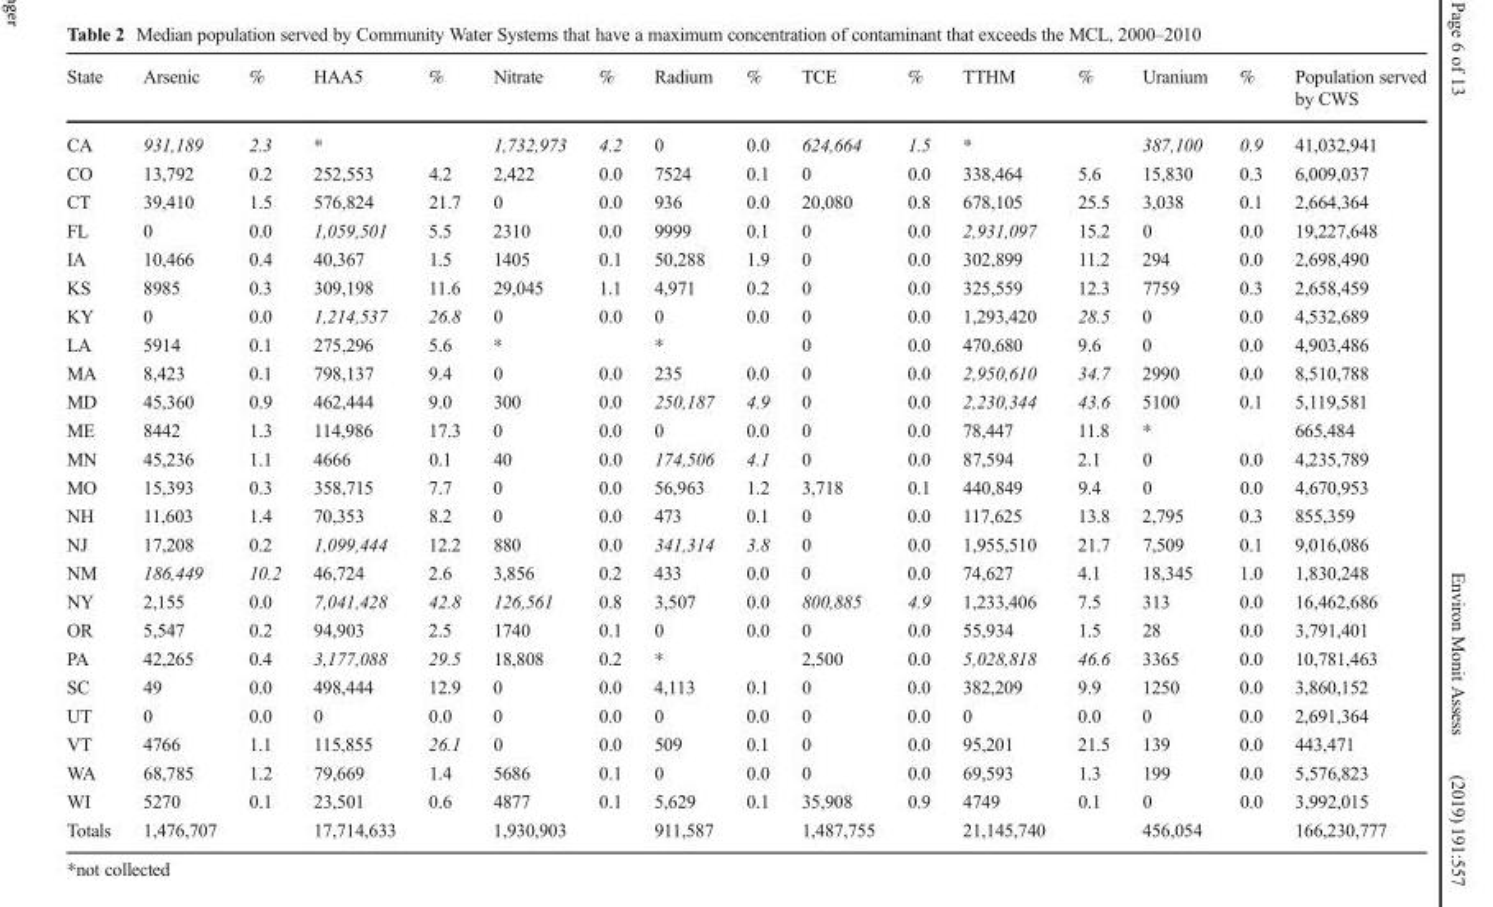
<table><thead><tr><td>State</td><td>Arsenic</td><td>%</td><td>HAA5</td><td>%</td><td>Nitrate</td><td>%</td><td>Radium</td><td>%</td><td>TCE</td><td>%</td><td>TTHM</td><td>%</td><td>Uranium</td><td>%</td><td>Population served by CWS</td></tr></thead><tbody><tr><td>CA</td><td>931,189</td><td>2.3</td><td>*</td><td></td><td>1,732,973</td><td>4.2</td><td>0</td><td>0.0</td><td>624,664</td><td>1.5</td><td>*</td><td></td><td>387,100</td><td>0.9</td><td>41,032,941</td></tr><tr><td>CO</td><td>13,792</td><td>0.2</td><td>252,553</td><td>4.2</td><td>2,422</td><td>0.0</td><td>7524</td><td>0.1</td><td>0</td><td>0.0</td><td>338,464</td><td>5.6</td><td>15,830</td><td>0.3</td><td>6,009,037</td></tr><tr><td>CT</td><td>39,410</td><td>1.5</td><td>576,824</td><td>21.7</td><td>0</td><td>0.0</td><td>936</td><td>0.0</td><td>20,080</td><td>0.8</td><td>678,105</td><td>25.5</td><td>3,038</td><td>0.1</td><td>2,664,364</td></tr><tr><td>FL</td><td>0</td><td>0.0</td><td>1,059,501</td><td>5.5</td><td>2310</td><td>0.0</td><td>9999</td><td>0.1</td><td>0</td><td>0.0</td><td>2,931,097</td><td>15.2</td><td>0</td><td>0.0</td><td>19,227,648</td></tr><tr><td>IA</td><td>10,466</td><td>0.4</td><td>40,367</td><td>1.5</td><td>1405</td><td>0.1</td><td>50,288</td><td>1.9</td><td>0</td><td>0.0</td><td>302,899</td><td>11.2</td><td>294</td><td>0.0</td><td>2,698,490</td></tr><tr><td>KS</td><td>8985</td><td>0.3</td><td>309,198</td><td>11.6</td><td>29,045</td><td>1.1</td><td>4,971</td><td>0.2</td><td>0</td><td>0.0</td><td>325,559</td><td>12.3</td><td>7759</td><td>0.3</td><td>2,658,459</td></tr><tr><td>KY</td><td>0</td><td>0.0</td><td>1,214,537</td><td>26.8</td><td>0</td><td>0.0</td><td>0</td><td>0.0</td><td>0</td><td>0.0</td><td>1,293,420</td><td>28.5</td><td>0</td><td>0.0</td><td>4,532,689</td></tr><tr><td>LA</td><td>5914</td><td>0.1</td><td>275,296</td><td>5.6</td><td>*</td><td></td><td>*</td><td></td><td>0</td><td>0.0</td><td>470,680</td><td>9.6</td><td>0</td><td>0.0</td><td>4,903,486</td></tr><tr><td>MA</td><td>8,423</td><td>0.1</td><td>798,137</td><td>9.4</td><td>0</td><td>0.0</td><td>235</td><td>0.0</td><td>0</td><td>0.0</td><td>2,950,610</td><td>34.7</td><td>2990</td><td>0.0</td><td>8,510,788</td></tr><tr><td>MD</td><td>45,360</td><td>0.9</td><td>462,444</td><td>9.0</td><td>300</td><td>0.0</td><td>250,187</td><td>4.9</td><td>0</td><td>0.0</td><td>2,230,344</td><td>43.6</td><td>5100</td><td>0.1</td><td>5,119,581</td></tr><tr><td>ME</td><td>8442</td><td>1.3</td><td>114,986</td><td>17.3</td><td>0</td><td>0.0</td><td>0</td><td>0.0</td><td>0</td><td>0.0</td><td>78,447</td><td>11.8</td><td>*</td><td></td><td>665,484</td></tr><tr><td>MN</td><td>45,236</td><td>1.1</td><td>4666</td><td>0.1</td><td>40</td><td>0.0</td><td>174,506</td><td>4.1</td><td>0</td><td>0.0</td><td>87,594</td><td>2.1</td><td>0</td><td>0.0</td><td>4,235,789</td></tr><tr><td>MO</td><td>15,393</td><td>0.3</td><td>358,715</td><td>7.7</td><td>0</td><td>0.0</td><td>56,963</td><td>1.2</td><td>3,718</td><td>0.1</td><td>440,849</td><td>9.4</td><td>0</td><td>0.0</td><td>4,670,953</td></tr><tr><td>NH</td><td>11,603</td><td>1.4</td><td>70,353</td><td>8.2</td><td>0</td><td>0.0</td><td>473</td><td>0.1</td><td>0</td><td>0.0</td><td>117,625</td><td>13.8</td><td>2,795</td><td>0.3</td><td>855,359</td></tr><tr><td>NJ</td><td>17,208</td><td>0.2</td><td>1,099,444</td><td>12.2</td><td>880</td><td>0.0</td><td>341,314</td><td>3.8</td><td>0</td><td>0.0</td><td>1,955,510</td><td>21.7</td><td>7,509</td><td>0.1</td><td>9,016,086</td></tr><tr><td>NM</td><td>186,449</td><td>10.2</td><td>46,724</td><td>2.6</td><td>3,856</td><td>0.2</td><td>433</td><td>0.0</td><td>0</td><td>0.0</td><td>74,627</td><td>4.1</td><td>18,345</td><td>1.0</td><td>1,830,248</td></tr><tr><td>NY</td><td>2,155</td><td>0.0</td><td>7,041,428</td><td>42.8</td><td>126,561</td><td>0.8</td><td>3,507</td><td>0.0</td><td>800,885</td><td>4.9</td><td>1,233,406</td><td>7.5</td><td>313</td><td>0.0</td><td>16,462,686</td></tr><tr><td>OR</td><td>5,547</td><td>0.2</td><td>94,903</td><td>2.5</td><td>1740</td><td>0.1</td><td>0</td><td>0.0</td><td>0</td><td>0.0</td><td>55,934</td><td>1.5</td><td>28</td><td>0.0</td><td>3,791,401</td></tr><tr><td>PA</td><td>42,265</td><td>0.4</td><td>3,177,088</td><td>29.5</td><td>18,808</td><td>0.2</td><td>*</td><td></td><td>2,500</td><td>0.0</td><td>5,028,818</td><td>46.6</td><td>3365</td><td>0.0</td><td>10,781,463</td></tr><tr><td>SC</td><td>49</td><td>0.0</td><td>498,444</td><td>12.9</td><td>0</td><td>0.0</td><td>4,113</td><td>0.1</td><td>0</td><td>0.0</td><td>382,209</td><td>9.9</td><td>1250</td><td>0.0</td><td>3,860,152</td></tr><tr><td>UT</td><td>0</td><td>0.0</td><td>0</td><td>0.0</td><td>0</td><td>0.0</td><td>0</td><td>0.0</td><td>0</td><td>0.0</td><td>0</td><td>0.0</td><td>0</td><td>0.0</td><td>2,691,364</td></tr><tr><td>VT</td><td>4766</td><td>1.1</td><td>115,855</td><td>26.1</td><td>0</td><td>0.0</td><td>509</td><td>0.1</td><td>0</td><td>0.0</td><td>95,201</td><td>21.5</td><td>139</td><td>0.0</td><td>443,471</td></tr><tr><td>WA</td><td>68,785</td><td>1.2</td><td>79,669</td><td>1.4</td><td>5686</td><td>0.1</td><td>0</td><td>0.0</td><td>0</td><td>0.0</td><td>69,593</td><td>1.3</td><td>199</td><td>0.0</td><td>5,576,823</td></tr><tr><td>WI</td><td>5270</td><td>0.1</td><td>23,501</td><td>0.6</td><td>4877</td><td>0.1</td><td>5,629</td><td>0.1</td><td>35,908</td><td>0.9</td><td>4749</td><td>0.1</td><td>0</td><td>0.0</td><td>3,992,015</td></tr><tr><td>Totals</td><td>1,476,707</td><td></td><td>17,714,633</td><td></td><td>1,930,903</td><td></td><td>911,587</td><td></td><td>1,487,755</td><td></td><td>21,145,740</td><td></td><td>456,054</td><td></td><td>166,230,777</td></tr></tbody></table>